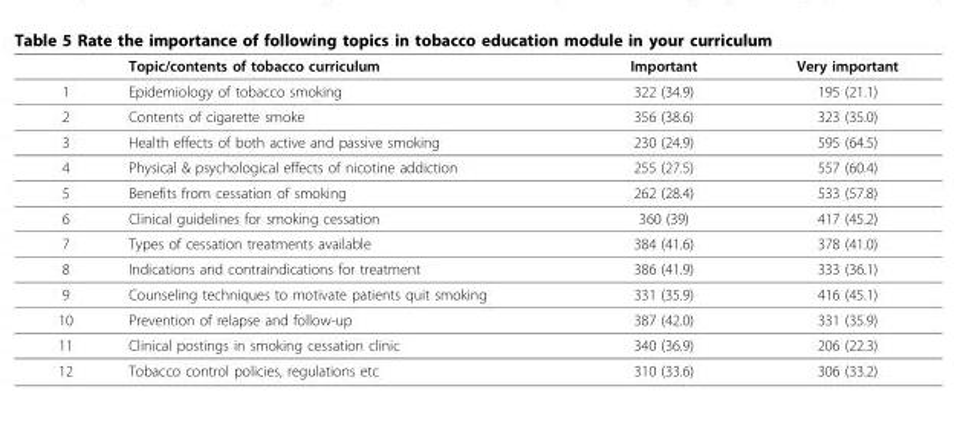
<table><thead><tr><td></td><td>Topic/contents of tobacco curriculum</td><td>Important</td><td>Very important</td></tr></thead><tbody><tr><td>1</td><td>Epidemiology of tobacco smoking</td><td>322 (34.9)</td><td>195 (21.1)</td></tr><tr><td>2</td><td>Contents of cigarette smoke</td><td>356 (38.6)</td><td>323 (35.0)</td></tr><tr><td>3</td><td>Health effects of both active and passive smoking</td><td>230 (24.9)</td><td>595 (64.5)</td></tr><tr><td>4</td><td>Physical &amp; psychological effects of nicotine addiction</td><td>255 (27.5)</td><td>557 (60.4)</td></tr><tr><td>5</td><td>Benefits from cessation of smoking</td><td>262 (28.4)</td><td>533 (57.8)</td></tr><tr><td>6</td><td>Clinical guidelines for smoking cessation</td><td>360 (39)</td><td>417 (45.2)</td></tr><tr><td>7</td><td>Types of cessation treatments available</td><td>384 (41.6)</td><td>378 (41.0)</td></tr><tr><td>8</td><td>Indications and contraindications for treatment</td><td>386 (41.9)</td><td>333 (36.1)</td></tr><tr><td>9</td><td>Counseling techniques to motivate patients quit smoking</td><td>331 (35.9)</td><td>416 (45.1)</td></tr><tr><td>10</td><td>Prevention of relapse and follow-up</td><td>387 (42.0)</td><td>331 (35.9)</td></tr><tr><td>11</td><td>Clinical postings in smoking cessation clinic</td><td>340 (36.9)</td><td>206 (22.3)</td></tr><tr><td>12</td><td>Tobacco control policies, regulations etc</td><td>310 (33.6)</td><td>306 (33.2)</td></tr></tbody></table>